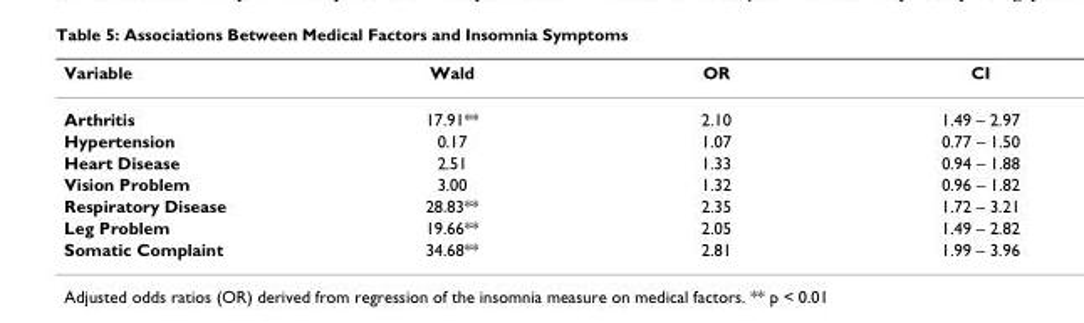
<table><thead><tr><td>Variable</td><td>Wald</td><td>OR</td><td>CI</td></tr></thead><tbody><tr><td>Arthritis</td><td>17.91**</td><td>2.10</td><td>1.49 – 2.97</td></tr><tr><td>Hypertension</td><td>0.17</td><td>1.07</td><td>0.77 – 1.50</td></tr><tr><td>Heart Disease</td><td>2.51</td><td>1.33</td><td>0.94 – 1.88</td></tr><tr><td>Vision Problem</td><td>3.00</td><td>1.32</td><td>0.96 – 1.82</td></tr><tr><td>Respiratory Disease</td><td>28.83**</td><td>2.35</td><td>1.72 – 3.21</td></tr><tr><td>Leg Problem</td><td>19.66**</td><td>2.05</td><td>1.49 – 2.82</td></tr><tr><td>Somatic Complaint</td><td>34.68**</td><td>2.81</td><td>1.99 – 3.96</td></tr></tbody></table>